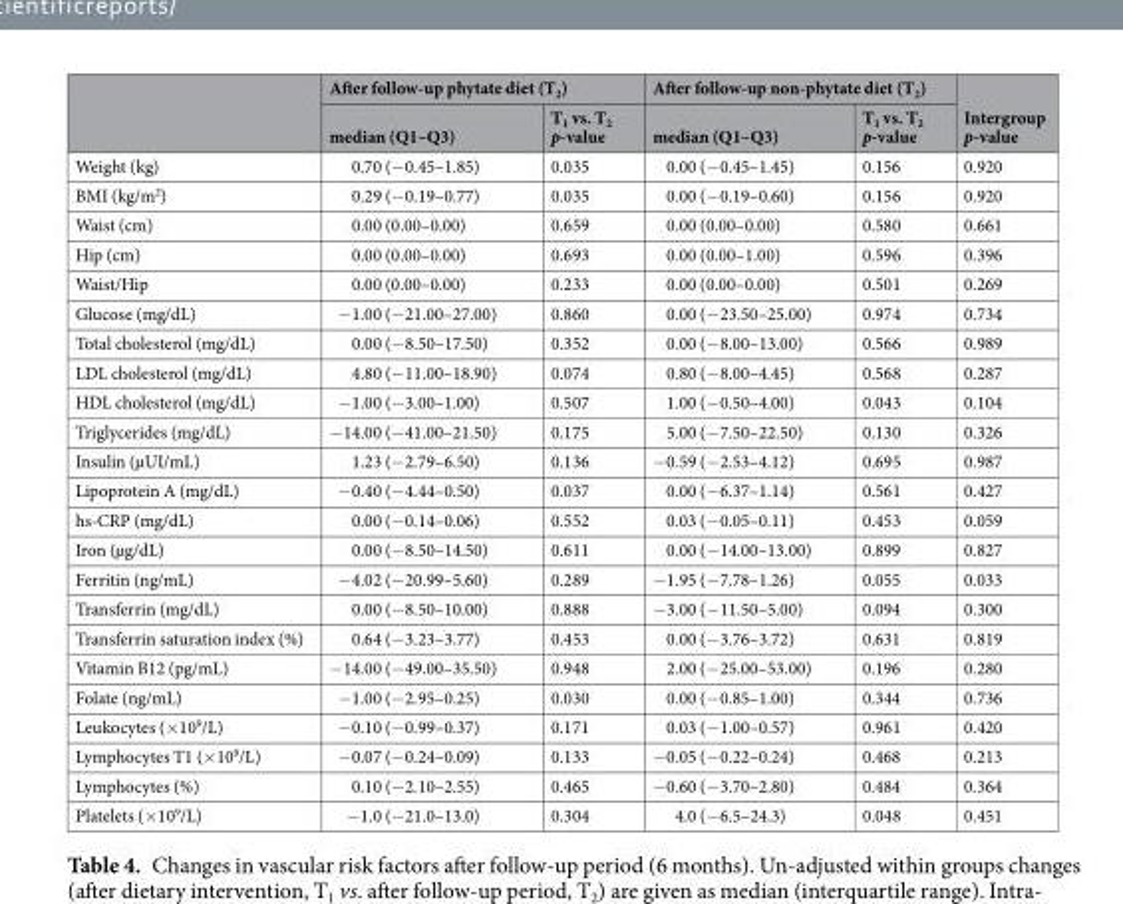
<table><thead><tr><td rowspan="2"></td><td colspan="2">After follow-up phytate diet (T<sub>2</sub>)</td><td colspan="2">After follow-up non-phytate diet (T<sub>2</sub>)</td><td rowspan="2">Intergroup p-value</td></tr><tr><td>median (Q1–Q3)</td><td>T<sub>1</sub> vs. T<sub>2</sub> p-value</td><td>median (Q1–Q3)</td><td>T<sub>1</sub> vs. T<sub>2</sub> p-value</td></tr></thead><tbody><tr><td>Weight (kg)</td><td>0.70 (−0.45–1.85)</td><td>0.035</td><td>0.00 (−0.45–1.45)</td><td>0.156</td><td>0.920</td></tr><tr><td>BMI (kg/m<sup>2</sup>)</td><td>0.29 (−0.19–0.77)</td><td>0.035</td><td>0.00 (−0.19–0.60)</td><td>0.156</td><td>0.920</td></tr><tr><td>Waist (cm)</td><td>0.00 (0.00–0.00)</td><td>0.659</td><td>0.00 (0.00–0.00)</td><td>0.580</td><td>0.661</td></tr><tr><td>Hip (cm)</td><td>0.00 (0.00–0.00)</td><td>0.693</td><td>0.00 (0.00–1.00)</td><td>0.596</td><td>0.396</td></tr><tr><td>Waist/Hip</td><td>0.00 (0.00–0.00)</td><td>0.233</td><td>0.00 (0.00–0.00)</td><td>0.501</td><td>0.269</td></tr><tr><td>Glucose (mg/dL)</td><td>−1.00 (−21.00–27.00)</td><td>0.860</td><td>0.00 (−23.50–25.00)</td><td>0.974</td><td>0.734</td></tr><tr><td>Total cholesterol (mg/dL)</td><td>0.00 (−8.50–17.50)</td><td>0.352</td><td>0.00 (−8.00–13.00)</td><td>0.566</td><td>0.989</td></tr><tr><td>LDL cholesterol (mg/dL)</td><td>4.80 (−11.00–18.90)</td><td>0.074</td><td>0.80 (−8.00–4.45)</td><td>0.568</td><td>0.287</td></tr><tr><td>HDL cholesterol (mg/dL)</td><td>−1.00 (−3.00–1.00)</td><td>0.507</td><td>1.00 (−0.50–4.00)</td><td>0.043</td><td>0.104</td></tr><tr><td>Triglycerides (mg/dL)</td><td>−14.00 (−41.00–21.50)</td><td>0.175</td><td>5.00 (−7.50–22.50)</td><td>0.130</td><td>0.326</td></tr><tr><td>Insulin (µUI/mL)</td><td>1.23 (−2.79–6.50)</td><td>0.136</td><td>−0.59 (−2.53–4.12)</td><td>0.695</td><td>0.987</td></tr><tr><td>Lipoprotein A (mg/dL)</td><td>−0.40 (−4.44–0.50)</td><td>0.037</td><td>0.00 (−6.37–1.14)</td><td>0.561</td><td>0.427</td></tr><tr><td>hs-CRP (mg/dL)</td><td>0.00 (−0.14–0.06)</td><td>0.552</td><td>0.03 (−0.05–0.11)</td><td>0.453</td><td>0.059</td></tr><tr><td>Iron (µg/dL)</td><td>0.00 (−8.50–14.50)</td><td>0.611</td><td>0.00 (−14.00–13.00)</td><td>0.899</td><td>0.827</td></tr><tr><td>Ferritin (ng/mL)</td><td>−4.02 (−20.99–5.60)</td><td>0.289</td><td>−1.95 (−7.78–1.26)</td><td>0.055</td><td>0.033</td></tr><tr><td>Transferrin (mg/dL)</td><td>0.00 (−8.50–10.00)</td><td>0.888</td><td>−3.00 (−11.50–5.00)</td><td>0.094</td><td>0.300</td></tr><tr><td>Transferrin saturation index (%)</td><td>0.64 (−3.23–3.77)</td><td>0.453</td><td>0.00 (−3.76–3.72)</td><td>0.631</td><td>0.819</td></tr><tr><td>Vitamin B12 (pg/mL)</td><td>−14.00 (−49.00–35.50)</td><td>0.948</td><td>2.00 (−25.00–53.00)</td><td>0.196</td><td>0.280</td></tr><tr><td>Folate (ng/mL)</td><td>−1.00 (−2.95–0.25)</td><td>0.030</td><td>0.00 (−0.85–1.00)</td><td>0.344</td><td>0.736</td></tr><tr><td>Leukocytes (×10<sup>9</sup>/L)</td><td>−0.10 (−0.99–0.37)</td><td>0.171</td><td>0.03 (−1.00–0.57)</td><td>0.961</td><td>0.420</td></tr><tr><td>Lymphocytes T1 (×10<sup>9</sup>/L)</td><td>−0.07 (−0.24–0.09)</td><td>0.133</td><td>−0.05 (−0.22–0.24)</td><td>0.468</td><td>0.213</td></tr><tr><td>Lymphocytes (%)</td><td>0.10 (−2.10–2.55)</td><td>0.465</td><td>−0.60 (−3.70–2.80)</td><td>0.484</td><td>0.364</td></tr><tr><td>Platelets (×10<sup>9</sup>/L)</td><td>−1.0 (−21.0–13.0)</td><td>0.304</td><td>4.0 (−6.5–24.3)</td><td>0.048</td><td>0.451</td></tr></tbody></table>